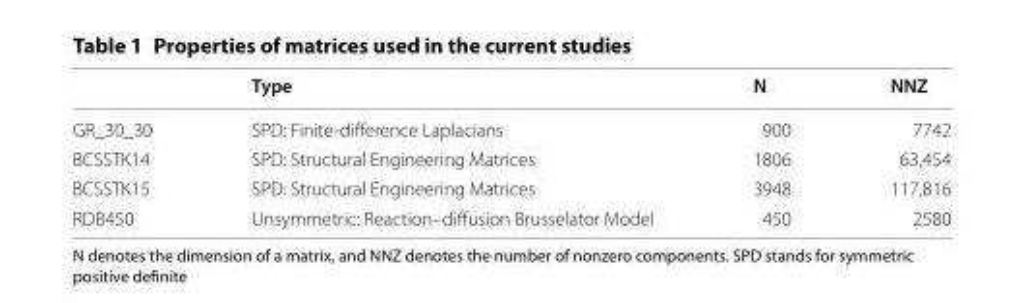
<table><thead><tr><td></td><td>Type</td><td>N</td><td>NNZ</td></tr></thead><tbody><tr><td>GR_30_30</td><td>SPD: Finite-difference Laplacians</td><td>900</td><td>7742</td></tr><tr><td>BCSSTK14</td><td>SPD: Structural Engineering Matrices</td><td>1806</td><td>63,454</td></tr><tr><td>BCSSTK15</td><td>SPD: Structural Engineering Matrices</td><td>3948</td><td>117,816</td></tr><tr><td>RDB450</td><td>Unsymmetric: Reaction–diffusion Brusselator Model</td><td>450</td><td>2580</td></tr></tbody></table>